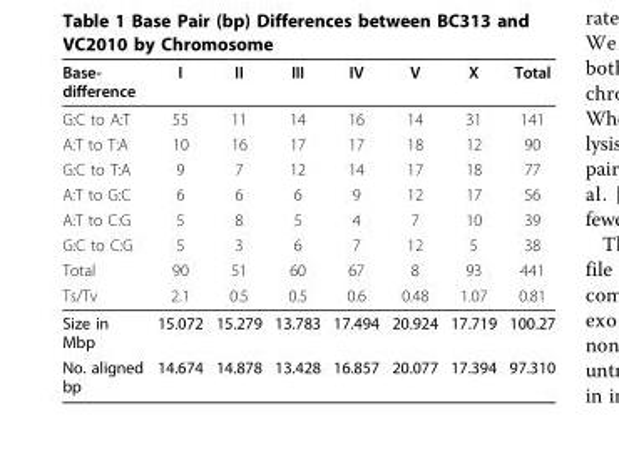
<table><thead><tr><td>Base- difference</td><td>I</td><td>II</td><td>III</td><td>IV</td><td>V</td><td>X</td><td>Total</td></tr></thead><tbody><tr><td>G:C to A:T</td><td>55</td><td>11</td><td>14</td><td>16</td><td>14</td><td>31</td><td>141</td></tr><tr><td>A:T to T:A</td><td>10</td><td>16</td><td>17</td><td>17</td><td>18</td><td>12</td><td>90</td></tr><tr><td>G:C to T:A</td><td>9</td><td>7</td><td>12</td><td>14</td><td>17</td><td>18</td><td>77</td></tr><tr><td>A:T to G:C</td><td>6</td><td>6</td><td>6</td><td>9</td><td>12</td><td>17</td><td>56</td></tr><tr><td>A:T to C:G</td><td>5</td><td>8</td><td>5</td><td>4</td><td>7</td><td>10</td><td>39</td></tr><tr><td>G:C to C:G</td><td>5</td><td>3</td><td>6</td><td>7</td><td>12</td><td>5</td><td>38</td></tr><tr><td>Total</td><td>90</td><td>51</td><td>60</td><td>67</td><td>8</td><td>93</td><td>441</td></tr><tr><td>Ts/Tv</td><td>2.1</td><td>0.5</td><td>0.5</td><td>0.6</td><td>0.48</td><td>1.07</td><td>0.81</td></tr><tr><td>Size in Mbp</td><td>15.072</td><td>15.279</td><td>13.783</td><td>17.494</td><td>20.924</td><td>17.719</td><td>100.27</td></tr><tr><td>No. aligned bp</td><td>14.674</td><td>14.878</td><td>13.428</td><td>16.857</td><td>20.077</td><td>17.394</td><td>97.310</td></tr></tbody></table>